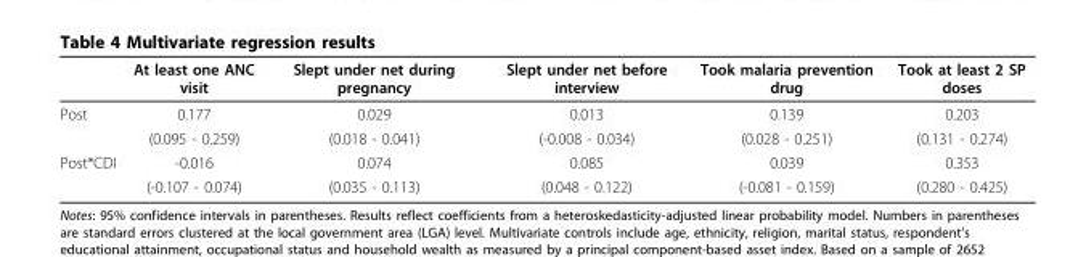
<table><thead><tr><td></td><td>At least one ANC visit</td><td>Slept under net during pregnancy</td><td>Slept under net before interview</td><td>Took malaria prevention drug</td><td>Took at least 2 SP doses</td></tr></thead><tbody><tr><td rowspan="2">Post</td><td>0.177</td><td>0.029</td><td>0.013</td><td>0.139</td><td>0.203</td></tr><tr><td>(0.095 - 0.259)</td><td>(0.018 - 0.041)</td><td>(-0.008 - 0.034)</td><td>(0.028 - 0.251)</td><td>(0.131 - 0.274)</td></tr><tr><td rowspan="2">Post*CDI</td><td>-0.016</td><td>0.074</td><td>0.085</td><td>0.039</td><td>0.353</td></tr><tr><td>(-0.107 - 0.074)</td><td>(0.035 - 0.113)</td><td>(0.048 - 0.122)</td><td>(-0.081 - 0.159)</td><td>(0.280 - 0.425)</td></tr></tbody></table>